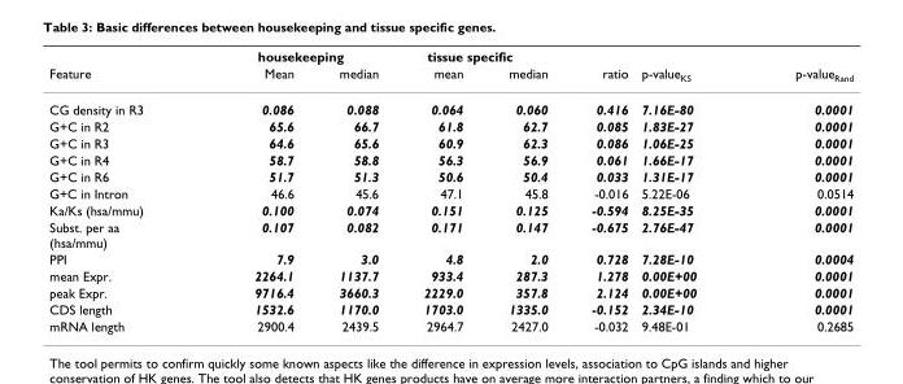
<table><thead><tr><td rowspan="2">Feature</td><td colspan="2">housekeeping</td><td colspan="2">tissue specific</td><td rowspan="2">ratio</td><td rowspan="2">p-value<sub>KS</sub></td><td rowspan="2">p-value<sub>Rand</sub></td></tr><tr><td>Mean</td><td>median</td><td>mean</td><td>median</td></tr></thead><tbody><tr><td>CG density in R3</td><td>0.086</td><td>0.088</td><td>0.064</td><td>0.060</td><td>0.416</td><td>7.16E-80</td><td>0.0001</td></tr><tr><td>G+C in R2</td><td>65.6</td><td>66.7</td><td>61.8</td><td>62.7</td><td>0.085</td><td>1.83E-27</td><td>0.0001</td></tr><tr><td>G+C in R3</td><td>64.6</td><td>65.6</td><td>60.9</td><td>62.3</td><td>0.086</td><td>1.06E-25</td><td>0.0001</td></tr><tr><td>G+C in R4</td><td>58.7</td><td>58.8</td><td>56.3</td><td>56.9</td><td>0.061</td><td>1.66E-17</td><td>0.0001</td></tr><tr><td>G+C in R6</td><td>51.7</td><td>51.3</td><td>50.6</td><td>50.4</td><td>0.033</td><td>1.31E-17</td><td>0.0001</td></tr><tr><td>G+C in Intron</td><td>46.6</td><td>45.6</td><td>47.1</td><td>45.8</td><td>-0.016</td><td>5.22E-06</td><td>0.0514</td></tr><tr><td>Ka/Ks (hsa/mmu)</td><td>0.100</td><td>0.074</td><td>0.151</td><td>0.125</td><td>-0.594</td><td>8.25E-35</td><td>0.0001</td></tr><tr><td>Subst. per aa (hsa/mmu)</td><td>0.107</td><td>0.082</td><td>0.171</td><td>0.147</td><td>-0.675</td><td>2.76E-47</td><td>0.0001</td></tr><tr><td>PPI</td><td>7.9</td><td>3.0</td><td>4.8</td><td>2.0</td><td>0.728</td><td>7.28E-10</td><td>0.0004</td></tr><tr><td>mean Expr.</td><td>2264.1</td><td>1137.7</td><td>933.4</td><td>287.3</td><td>1.278</td><td>0.00E+00</td><td>0.0001</td></tr><tr><td>peak Expr.</td><td>9716.4</td><td>3660.3</td><td>2229.0</td><td>357.8</td><td>2.124</td><td>0.00E+00</td><td>0.0001</td></tr><tr><td>CDS length</td><td>1532.6</td><td>1170.0</td><td>1703.0</td><td>1335.0</td><td>-0.152</td><td>2.34E-10</td><td>0.0001</td></tr><tr><td>mRNA length</td><td>2900.4</td><td>2439.5</td><td>2964.7</td><td>2427.0</td><td>-0.032</td><td>9.48E-01</td><td>0.2685</td></tr></tbody></table>